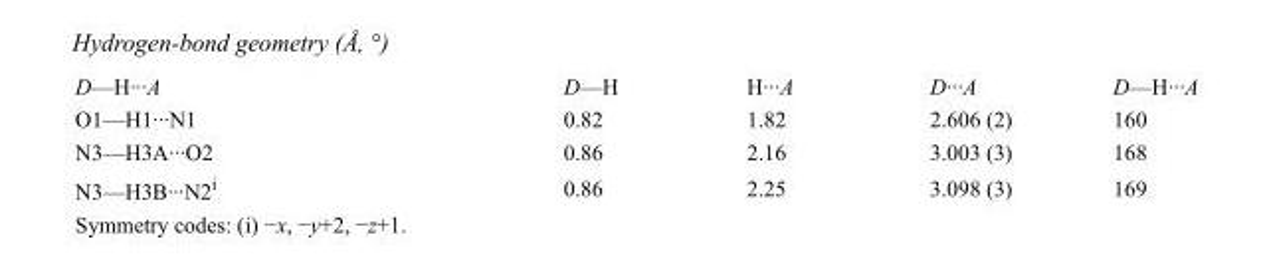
<table><tbody><tr><td>D—H···A</td><td>D—H</td><td>H···A</td><td>D···A</td><td>D—H···A</td></tr><tr><td>O1—H1···N1</td><td>0.82</td><td>1.82</td><td>2.606 (2)</td><td>160</td></tr><tr><td>N3—H3A···O2</td><td>0.86</td><td>2.16</td><td>3.003 (3)</td><td>168</td></tr><tr><td>N3—H3B···N2<sup>i</sup></td><td>0.86</td><td>2.25</td><td>3.098 (3)</td><td>169</td></tr></tbody></table>